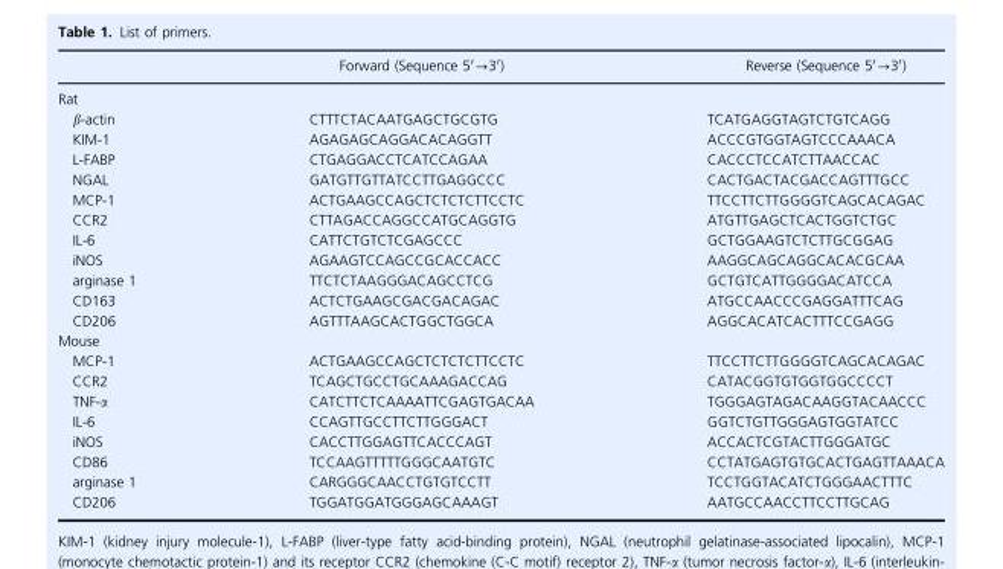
<table><thead><tr><td></td><td>Forward (Sequence 5′→3′)</td><td>Reverse (Sequence 5′→3′)</td></tr></thead><tbody><tr><td colspan="3">Rat</td></tr><tr><td>β-actin</td><td>CTTTCTACAATGAGCTGCGTG</td><td>TCATGAGGTAGTCTGTCAGG</td></tr><tr><td>KIM-1</td><td>AGAGAGCAGGACACAGGTT</td><td>ACCCGTGGTAGTCCCAAACA</td></tr><tr><td>L-FABP</td><td>CTGAGGACCTCATCCAGAA</td><td>CACCCTCCATCTTAACCAC</td></tr><tr><td>NGAL</td><td>GATGTTGTTATCCTTGAGGCCC</td><td>CACTGACTACGACCAGTTTGCC</td></tr><tr><td>MCP-1</td><td>ACTGAAGCCAGCTCTCTCTTCCTC</td><td>TTCCTTCTTGGGGTCAGCACAGAC</td></tr><tr><td>CCR2</td><td>CTTAGACCAGGCCATGCAGGTG</td><td>ATGTTGAGCTCACTGGTCTGC</td></tr><tr><td>IL-6</td><td>CATTCTGTCTCGAGCCC</td><td>GCTGGAAGTCTCTTGCGGAG</td></tr><tr><td>iNOS</td><td>AGAAGTCCAGCCGCACCACC</td><td>AAGGCAGCAGGCACACGCAA</td></tr><tr><td>arginase 1</td><td>TTCTCTAAGGGACAGCCTCG</td><td>GCTGTCATTGGGGACATCCA</td></tr><tr><td>CD163</td><td>ACTCTGAAGCGACGACAGAC</td><td>ATGCCAACCCGAGGATTTCAG</td></tr><tr><td>CD206</td><td>AGTTTAAGCACTGGCTGGCA</td><td>AGGCACATCACTTTCCGAGG</td></tr><tr><td colspan="3">Mouse</td></tr><tr><td>MCP-1</td><td>ACTGAAGCCAGCTCTCTCTTCCTC</td><td>TTCCTTCTTGGGGTCAGCACAGAC</td></tr><tr><td>CCR2</td><td>TCAGCTGCCTGCAAAGACCAG</td><td>CATACGGTGTGGTGGCCCCT</td></tr><tr><td>TNF-α</td><td>CATCTTCTCAAAATTCGAGTGACAA</td><td>TGGGAGTAGACAAGGTACAACCC</td></tr><tr><td>IL-6</td><td>CCAGTTGCCTTCTTGGGACT</td><td>GGTCTGTTGGGAGTGGTATCC</td></tr><tr><td>iNOS</td><td>CACCTTGGAGTTCACCCAGT</td><td>ACCACTCGTACTTGGGATGC</td></tr><tr><td>CD86</td><td>TCCAAGTTTTTGGGCAATGTC</td><td>CCTATGAGTGTGCACTGAGTTAAACA</td></tr><tr><td>arginase 1</td><td>CARGGGCAACCTGTGTCCTT</td><td>TCCTGGTACATCTGGGAACTTTC</td></tr><tr><td>CD206</td><td>TGGATGGATGGGAGCAAAGT</td><td>AATGCCAACCTTCCTTGCAG</td></tr></tbody></table>